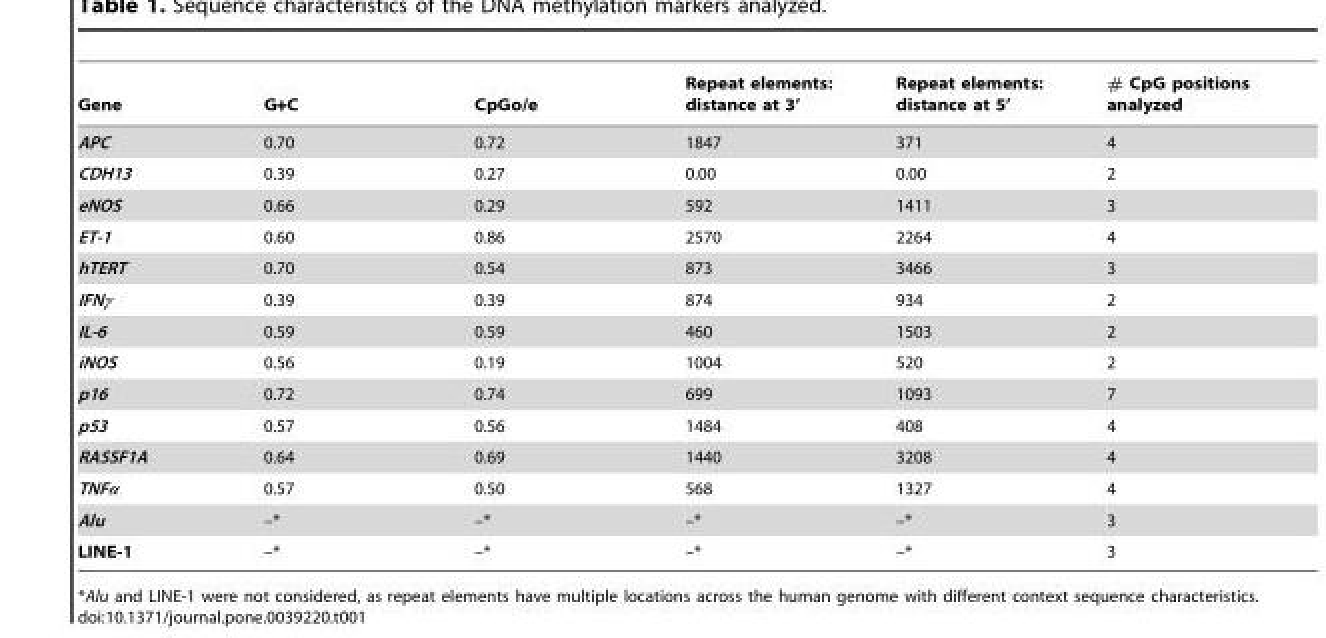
<table><thead><tr><td>Gene</td><td>G+C</td><td>CpGo/e</td><td>Repeat elements: distance at 3’</td><td>Repeat elements: distance at 5’</td><td># CpG positions analyzed</td></tr></thead><tbody><tr><td>APC</td><td>0.70</td><td>0.72</td><td>1847</td><td>371</td><td>4</td></tr><tr><td>CDH13</td><td>0.39</td><td>0.27</td><td>0.00</td><td>0.00</td><td>2</td></tr><tr><td>eNOS</td><td>0.66</td><td>0.29</td><td>592</td><td>1411</td><td>3</td></tr><tr><td>ET-1</td><td>0.60</td><td>0.86</td><td>2570</td><td>2264</td><td>4</td></tr><tr><td>hTERT</td><td>0.70</td><td>0.54</td><td>873</td><td>3466</td><td>3</td></tr><tr><td>IFNγ</td><td>0.39</td><td>0.39</td><td>874</td><td>934</td><td>2</td></tr><tr><td>IL-6</td><td>0.59</td><td>0.59</td><td>460</td><td>1503</td><td>2</td></tr><tr><td>iNOS</td><td>0.56</td><td>0.19</td><td>1004</td><td>520</td><td>2</td></tr><tr><td>p16</td><td>0.72</td><td>0.74</td><td>699</td><td>1093</td><td>7</td></tr><tr><td>p53</td><td>0.57</td><td>0.56</td><td>1484</td><td>408</td><td>4</td></tr><tr><td>RASSF1A</td><td>0.64</td><td>0.69</td><td>1440</td><td>3208</td><td>4</td></tr><tr><td>TNFα</td><td>0.57</td><td>0.50</td><td>568</td><td>1327</td><td>4</td></tr><tr><td>Alu</td><td>–*</td><td>–*</td><td>–*</td><td>–*</td><td>3</td></tr><tr><td>LINE-1</td><td>–*</td><td>–*</td><td>–*</td><td>–*</td><td>3</td></tr></tbody></table>